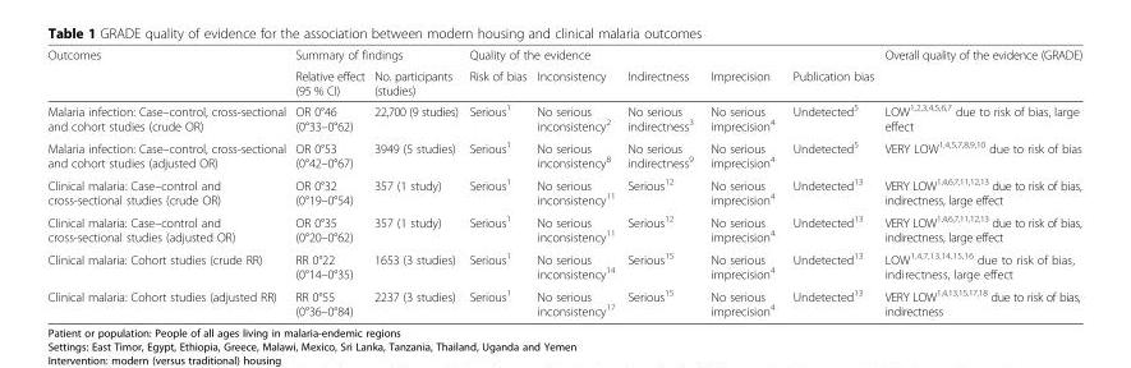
<table><thead><tr><td rowspan="2">Outcomes</td><td colspan="2">Summary of findings</td><td colspan="5">Quality of the evidence</td><td rowspan="2">Overall quality of the evidence (GRADE)</td></tr><tr><td>Relative effect (95 % CI)</td><td>No. participants (studies)</td><td>Risk of bias</td><td>Inconsistency</td><td>Indirectness</td><td>Imprecision</td><td>Publication bias</td></tr></thead><tbody><tr><td>Malaria infection: Case–control, cross-sectional and cohort studies (crude OR)</td><td>OR 0°46 (0°33–0°62)</td><td>22,700 (9 studies)</td><td>Serious<sup>1</sup></td><td>No serious inconsistency<sup>2</sup></td><td>No serious indirectness<sup>3</sup></td><td>No serious imprecision<sup>4</sup></td><td>Undetected<sup>5</sup></td><td>LOW<sup>1,2,3,4,5,6,7</sup> due to risk of bias, large effect</td></tr><tr><td>Malaria infection: Case–control, cross-sectional and cohort studies (adjusted OR)</td><td>OR 0°53 (0°42–0°67)</td><td>3949 (5 studies)</td><td>Serious<sup>1</sup></td><td>No serious inconsistency<sup>8</sup></td><td>No serious indirectness<sup>9</sup></td><td>No serious imprecision<sup>4</sup></td><td>Undetected<sup>5</sup></td><td>VERY LOW<sup>1,4,5,7,8,9,10</sup> due to risk of bias</td></tr><tr><td>Clinical malaria: Case–control and cross-sectional studies (crude OR)</td><td>OR 0°32 (0°19–0°54)</td><td>357 (1 study)</td><td>Serious<sup>1</sup></td><td>No serious inconsistency<sup>11</sup></td><td>Serious<sup>12</sup></td><td>No serious imprecision<sup>4</sup></td><td>Undetected<sup>13</sup></td><td>VERY LOW<sup>1,4,6,7,11,12,13</sup> due to risk of bias, indirectness, large effect</td></tr><tr><td>Clinical malaria: Case–control and cross-sectional studies (adjusted OR)</td><td>OR 0°35 (0°20–0°62)</td><td>357 (1 study)</td><td>Serious<sup>1</sup></td><td>No serious inconsistency<sup>11</sup></td><td>Serious<sup>12</sup></td><td>No serious imprecision<sup>4</sup></td><td>Undetected<sup>13</sup></td><td>VERY LOW<sup>1,4,6,7,11,12,13</sup> due to risk of bias, indirectness, large effect</td></tr><tr><td>Clinical malaria: Cohort studies (crude RR)</td><td>RR 0°22 (0°14–0°35)</td><td>1653 (3 studies)</td><td>Serious<sup>1</sup></td><td>No serious inconsistency<sup>14</sup></td><td>Serious<sup>15</sup></td><td>No serious imprecision<sup>4</sup></td><td>Undetected<sup>13</sup></td><td>LOW<sup>1,4,7,13,14,15,16</sup> due to risk of bias, indirectness, large effect</td></tr><tr><td>Clinical malaria: Cohort studies (adjusted RR)</td><td>RR 0°55 (0°36–0°84)</td><td>2237 (3 studies)</td><td>Serious<sup>1</sup></td><td>No serious inconsistency<sup>17</sup></td><td>Serious<sup>15</sup></td><td>No serious imprecision<sup>4</sup></td><td>Undetected<sup>13</sup></td><td>VERY LOW<sup>1,4,13,15,17,18</sup> due to risk of bias, indirectness</td></tr></tbody></table>